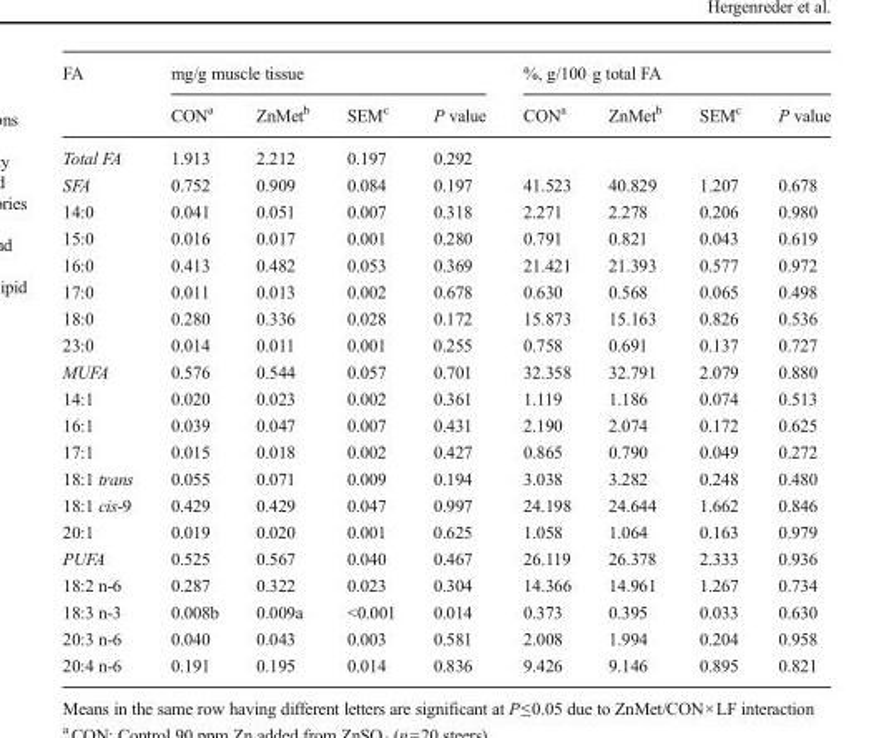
<table><thead><tr><td rowspan="2">FA</td><td colspan="4">mg/g muscle tissue</td><td colspan="4">%, g/100 g total FA</td></tr><tr><td>CON<sup>a</sup></td><td>ZnMet<sup>b</sup></td><td>SEM<sup>c</sup></td><td>P value</td><td>CON<sup>a</sup></td><td>ZnMet<sup>b</sup></td><td>SEM<sup>c</sup></td><td>P value</td></tr></thead><tbody><tr><td>Total FA</td><td>1.913</td><td>2.212</td><td>0.197</td><td>0.292</td><td></td><td></td><td></td><td></td></tr><tr><td>SFA</td><td>0.752</td><td>0.909</td><td>0.084</td><td>0.197</td><td>41.523</td><td>40.829</td><td>1.207</td><td>0.678</td></tr><tr><td>14:0</td><td>0.041</td><td>0.051</td><td>0.007</td><td>0.318</td><td>2.271</td><td>2.278</td><td>0.206</td><td>0.980</td></tr><tr><td>15:0</td><td>0.016</td><td>0.017</td><td>0.001</td><td>0.280</td><td>0.791</td><td>0.821</td><td>0.043</td><td>0.619</td></tr><tr><td>16:0</td><td>0.413</td><td>0.482</td><td>0.053</td><td>0.369</td><td>21.421</td><td>21.393</td><td>0.577</td><td>0.972</td></tr><tr><td>17:0</td><td>0.011</td><td>0.013</td><td>0.002</td><td>0.678</td><td>0.630</td><td>0.568</td><td>0.065</td><td>0.498</td></tr><tr><td>18:0</td><td>0.280</td><td>0.336</td><td>0.028</td><td>0.172</td><td>15.873</td><td>15.163</td><td>0.826</td><td>0.536</td></tr><tr><td>23:0</td><td>0.014</td><td>0.011</td><td>0.001</td><td>0.255</td><td>0.758</td><td>0.691</td><td>0.137</td><td>0.727</td></tr><tr><td>MUFA</td><td>0.576</td><td>0.544</td><td>0.057</td><td>0.701</td><td>32.358</td><td>32.791</td><td>2.079</td><td>0.880</td></tr><tr><td>14:1</td><td>0.020</td><td>0.023</td><td>0.002</td><td>0.361</td><td>1.119</td><td>1.186</td><td>0.074</td><td>0.513</td></tr><tr><td>16:1</td><td>0.039</td><td>0.047</td><td>0.007</td><td>0.431</td><td>2.190</td><td>2.074</td><td>0.172</td><td>0.625</td></tr><tr><td>17:1</td><td>0.015</td><td>0.018</td><td>0.002</td><td>0.427</td><td>0.865</td><td>0.790</td><td>0.049</td><td>0.272</td></tr><tr><td>18:1 trans</td><td>0.055</td><td>0.071</td><td>0.009</td><td>0.194</td><td>3.038</td><td>3.282</td><td>0.248</td><td>0.480</td></tr><tr><td>18:1 cis-9</td><td>0.429</td><td>0.429</td><td>0.047</td><td>0.997</td><td>24.198</td><td>24.644</td><td>1.662</td><td>0.846</td></tr><tr><td>20:1</td><td>0.019</td><td>0.020</td><td>0.001</td><td>0.625</td><td>1.058</td><td>1.064</td><td>0.163</td><td>0.979</td></tr><tr><td>PUFA</td><td>0.525</td><td>0.567</td><td>0.040</td><td>0.467</td><td>26.119</td><td>26.378</td><td>2.333</td><td>0.936</td></tr><tr><td>18:2 n-6</td><td>0.287</td><td>0.322</td><td>0.023</td><td>0.304</td><td>14.366</td><td>14.961</td><td>1.267</td><td>0.734</td></tr><tr><td>18:3 n-3</td><td>0.008b</td><td>0.009a</td><td>&lt;0.001</td><td>0.014</td><td>0.373</td><td>0.395</td><td>0.033</td><td>0.630</td></tr><tr><td>20:3 n-6</td><td>0.040</td><td>0.043</td><td>0.003</td><td>0.581</td><td>2.008</td><td>1.994</td><td>0.204</td><td>0.958</td></tr><tr><td>20:4 n-6</td><td>0.191</td><td>0.195</td><td>0.014</td><td>0.836</td><td>9.426</td><td>9.146</td><td>0.895</td><td>0.821</td></tr></tbody></table>